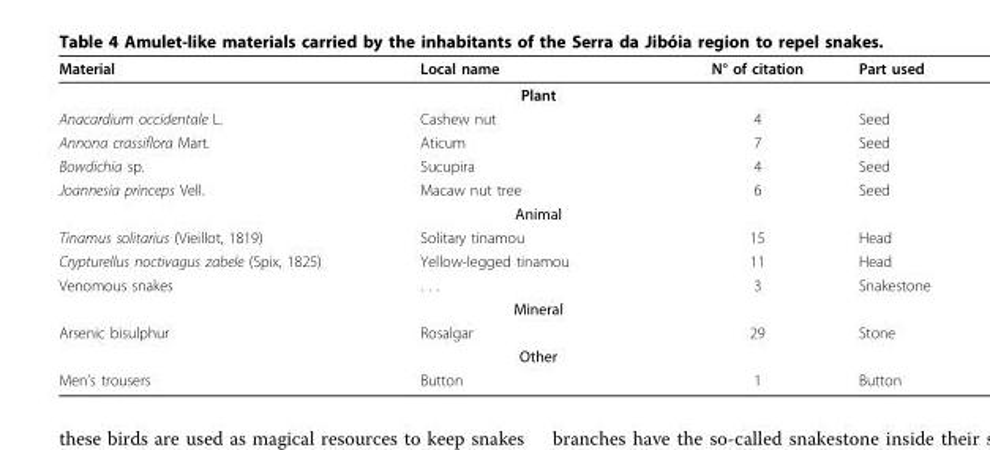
<table><thead><tr><td>Material</td><td>Local name</td><td>N° of citation</td><td>Part used</td></tr></thead><tbody><tr><td colspan="4">Plant</td></tr><tr><td>Anacardium occidentale L.</td><td>Cashew nut</td><td>4</td><td>Seed</td></tr><tr><td>Annona crassiflora Mart.</td><td>Aticum</td><td>7</td><td>Seed</td></tr><tr><td>Bowdichia sp.</td><td>Sucupira</td><td>4</td><td>Seed</td></tr><tr><td>Joannesia princeps Vell.</td><td>Macaw nut tree</td><td>6</td><td>Seed</td></tr><tr><td colspan="4">Animal</td></tr><tr><td>Tinamus solitarius (Vieillot, 1819)</td><td>Solitary tinamou</td><td>15</td><td>Head</td></tr><tr><td>Crypturellus noctivagus zabele (Spix, 1825)</td><td>Yellow-legged tinamou</td><td>11</td><td>Head</td></tr><tr><td>Venomous snakes</td><td>. . .</td><td>3</td><td>Snakestone</td></tr><tr><td colspan="4">Mineral</td></tr><tr><td>Arsenic bisulphur</td><td>Rosalgar</td><td>29</td><td>Stone</td></tr><tr><td colspan="4">Other</td></tr><tr><td>Men’s trousers</td><td>Button</td><td>1</td><td>Button</td></tr></tbody></table>